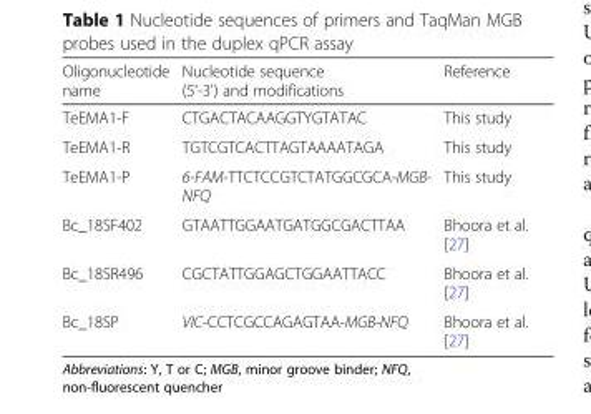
<table><thead><tr><td>Oligonucleotide name</td><td>Nucleotide sequence (5&#x27;-3&#x27;) and modifications</td><td>Reference</td></tr></thead><tbody><tr><td>TeEMA1-F</td><td>CTGACTACAAGGTYGTATAC</td><td>This study</td></tr><tr><td>TeEMA1-R</td><td>TGTCGTCACTTAGTAAAATAGA</td><td>This study</td></tr><tr><td>TeEMA1-P</td><td>6-FAM-TTCTCCGTCTATGGCGCA-MGB- NFQ</td><td>This study</td></tr><tr><td>Bc_18SF402</td><td>GTAATTGGAATGATGGCGACTTAA</td><td>Bhoora et al. [27]</td></tr><tr><td>Bc_18SR496</td><td>CGCTATTGGAGCTGGAATTACC</td><td>Bhoora et al. [27]</td></tr><tr><td>Bc_18SP</td><td>VIC-CCTCGCCAGAGTAA-MGB-NFQ</td><td>Bhoora et al. [27]</td></tr></tbody></table>